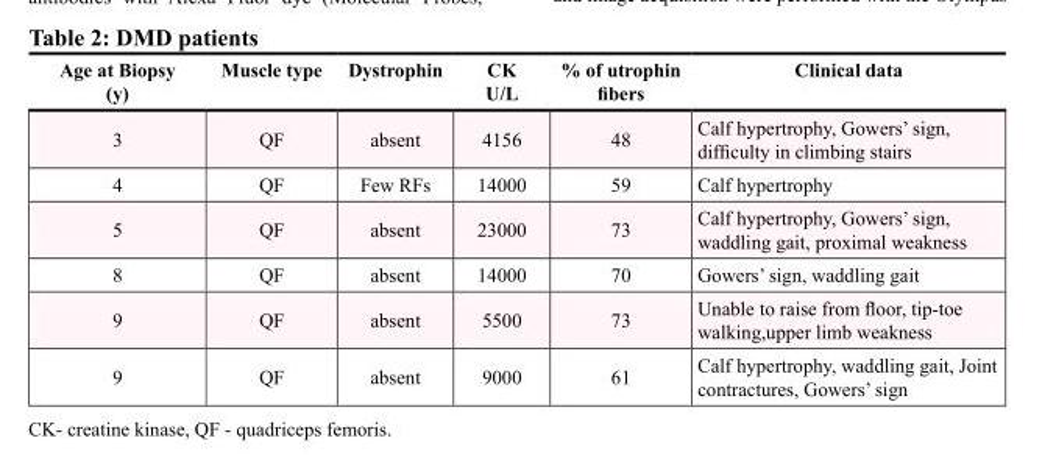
<table><thead><tr><td>Age at Biopsy (y)</td><td>Muscle type</td><td>Dystrophin</td><td>CK U/L</td><td>% of utrophin fibers</td><td>Clinical data</td></tr></thead><tbody><tr><td>3</td><td>QF</td><td>absent</td><td>4156</td><td>48</td><td>Calf hypertrophy, Gowers’ sign, difficulty in climbing stairs</td></tr><tr><td>4</td><td>QF</td><td>Few RFs</td><td>14000</td><td>59</td><td>Calf hypertrophy</td></tr><tr><td>5</td><td>QF</td><td>absent</td><td>23000</td><td>73</td><td>Calf hypertrophy, Gowers’ sign, waddling gait, proximal weakness</td></tr><tr><td>8</td><td>QF</td><td>absent</td><td>14000</td><td>70</td><td>Gowers’ sign, waddling gait</td></tr><tr><td>9</td><td>QF</td><td>absent</td><td>5500</td><td>73</td><td>Unable to raise from floor, tip-toe walking,upper limb weakness</td></tr><tr><td>9</td><td>QF</td><td>absent</td><td>9000</td><td>61</td><td>Calf hypertrophy, waddling gait, Joint contractures, Gowers’ sign</td></tr></tbody></table>